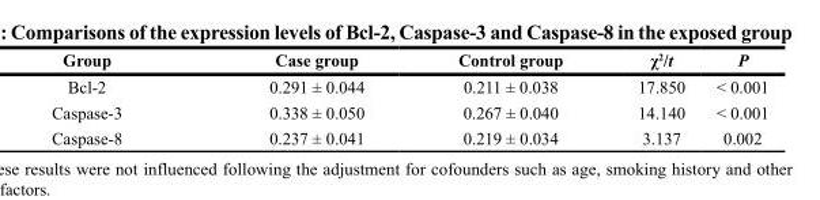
<table><thead><tr><td>Group</td><td>Case group</td><td>Control group</td><td>χ<sup>2</sup>/t</td><td>P</td></tr></thead><tbody><tr><td>Bcl-2</td><td>0.291 ± 0.044</td><td>0.211 ± 0.038</td><td>17.850</td><td>&lt; 0.001</td></tr><tr><td>Caspase-3</td><td>0.338 ± 0.050</td><td>0.267 ± 0.040</td><td>14.140</td><td>&lt; 0.001</td></tr><tr><td>Caspase-8</td><td>0.237 ± 0.041</td><td>0.219 ± 0.034</td><td>3.137</td><td>0.002</td></tr></tbody></table>